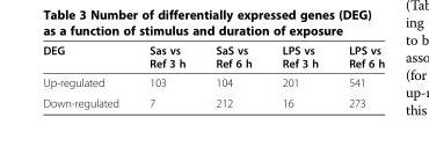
<table><thead><tr><td>DEG</td><td>Sas vs Ref 3 h</td><td>SaS vs Ref 6 h</td><td>LPS vs Ref 3 h</td><td>LPS vs Ref 6 h</td></tr></thead><tbody><tr><td>Up-regulated</td><td>103</td><td>104</td><td>201</td><td>541</td></tr><tr><td>Down-regulated</td><td>7</td><td>212</td><td>16</td><td>273</td></tr></tbody></table>